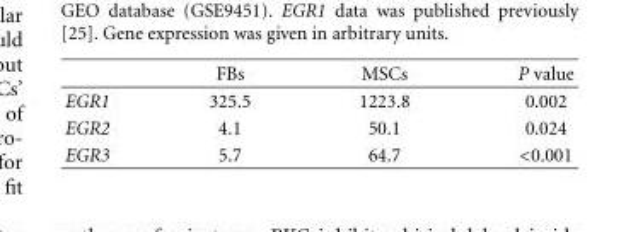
<table><thead><tr><td></td><td>FBs</td><td>MSCs</td><td>P value</td></tr></thead><tbody><tr><td>EGR1</td><td>325.5</td><td>1223.8</td><td>0.002</td></tr><tr><td>EGR2</td><td>4.1</td><td>50.1</td><td>0.024</td></tr><tr><td>EGR3</td><td>5.7</td><td>64.7</td><td>&lt;0.001</td></tr></tbody></table>